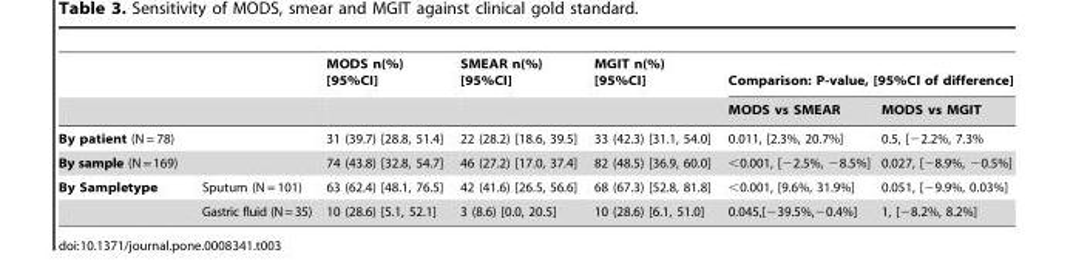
<table><thead><tr><td rowspan="2"></td><td rowspan="2"></td><td rowspan="2">MODS n(%) [95%CI]</td><td rowspan="2">SMEAR n(%) [95%CI]</td><td rowspan="2">MGIT n(%) [95%CI]</td><td colspan="2">Comparison: P-value, [95%CI of difference]</td></tr><tr><td>MODS vs SMEAR</td><td>MODS vs MGIT</td></tr></thead><tbody><tr><td colspan="2">By patient (N = 78)</td><td>31 (39.7) [28.8, 51.4]</td><td>22 (28.2) [18.6, 39.5]</td><td>33 (42.3) [31.1, 54.0]</td><td>0.011, [2.3%, 20.7%]</td><td>0.5, [−2.2%, 7.3%</td></tr><tr><td colspan="2">By sample (N = 169)</td><td>74 (43.8) [32.8, 54.7]</td><td>46 (27.2) [17.0, 37.4]</td><td>82 (48.5) [36.9, 60.0]</td><td>&lt;0.001, [−2.5%, −8.5%]</td><td>0.027, [−8.9%, −0.5%]</td></tr><tr><td rowspan="2">By Sampletype</td><td>Sputum (N = 101)</td><td>63 (62.4) [48.1, 76.5]</td><td>42 (41.6) [26.5, 56.6]</td><td>68 (67.3) [52.8, 81.8]</td><td>&lt;0.001, [9.6%, 31.9%]</td><td>0.051, [−9.9%, 0.03%]</td></tr><tr><td>Gastric fluid (N=35)</td><td>10 (28.6) [5.1, 52.1]</td><td>3 (8.6) [0.0, 20.5]</td><td>10 (28.6) [6.1, 51.0]</td><td>0.045,[−39.5%,−0.4%]</td><td>1, [−8.2%, 8.2%]</td></tr></tbody></table>